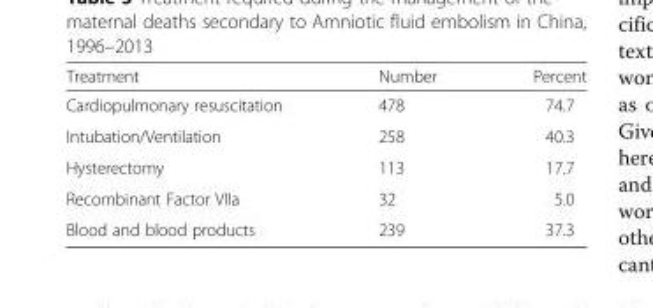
<table><thead><tr><td>Treatment</td><td>Number</td><td>Percent</td></tr></thead><tbody><tr><td>Cardiopulmonary resuscitation</td><td>478</td><td>74.7</td></tr><tr><td>Intubation/Ventilation</td><td>258</td><td>40.3</td></tr><tr><td>Hysterectomy</td><td>113</td><td>17.7</td></tr><tr><td>Recombinant Factor VIIa</td><td>32</td><td>5.0</td></tr><tr><td>Blood and blood products</td><td>239</td><td>37.3</td></tr></tbody></table>